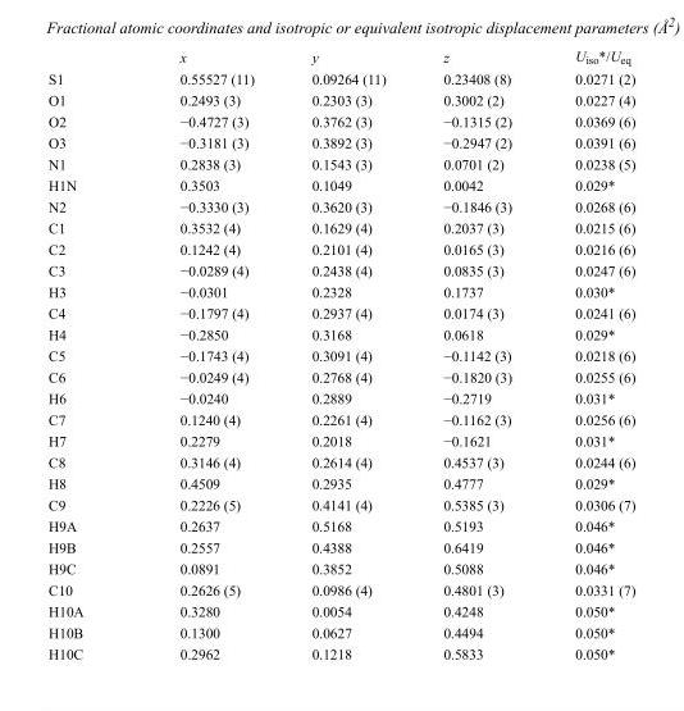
<table><thead><tr><td></td><td>x</td><td>y</td><td>z</td><td>U<sub>iso</sub>*/U<sub>eq</sub></td></tr></thead><tbody><tr><td>S1</td><td>0.55527 (11)</td><td>0.09264 (11)</td><td>0.23408 (8)</td><td>0.0271 (2)</td></tr><tr><td>O1</td><td>0.2493 (3)</td><td>0.2303 (3)</td><td>0.3002 (2)</td><td>0.0227 (4)</td></tr><tr><td>O2</td><td>−0.4727 (3)</td><td>0.3762 (3)</td><td>−0.1315 (2)</td><td>0.0369 (6)</td></tr><tr><td>O3</td><td>−0.3181 (3)</td><td>0.3892 (3)</td><td>−0.2947 (2)</td><td>0.0391 (6)</td></tr><tr><td>N1</td><td>0.2838 (3)</td><td>0.1543 (3)</td><td>0.0701 (2)</td><td>0.0238 (5)</td></tr><tr><td>H1N</td><td>0.3503</td><td>0.1049</td><td>0.0042</td><td>0.029*</td></tr><tr><td>N2</td><td>−0.3330 (3)</td><td>0.3620 (3)</td><td>−0.1846 (3)</td><td>0.0268 (6)</td></tr><tr><td>C1</td><td>0.3532 (4)</td><td>0.1629 (4)</td><td>0.2037 (3)</td><td>0.0215 (6)</td></tr><tr><td>C2</td><td>0.1242 (4)</td><td>0.2101 (4)</td><td>0.0165 (3)</td><td>0.0216 (6)</td></tr><tr><td>C3</td><td>−0.0289 (4)</td><td>0.2438 (4)</td><td>0.0835 (3)</td><td>0.0247 (6)</td></tr><tr><td>H3</td><td>−0.0301</td><td>0.2328</td><td>0.1737</td><td>0.030*</td></tr><tr><td>C4</td><td>−0.1797 (4)</td><td>0.2937 (4)</td><td>0.0174 (3)</td><td>0.0241 (6)</td></tr><tr><td>H4</td><td>−0.2850</td><td>0.3168</td><td>0.0618</td><td>0.029*</td></tr><tr><td>C5</td><td>−0.1743 (4)</td><td>0.3091 (4)</td><td>−0.1142 (3)</td><td>0.0218 (6)</td></tr><tr><td>C6</td><td>−0.0249 (4)</td><td>0.2768 (4)</td><td>−0.1820 (3)</td><td>0.0255 (6)</td></tr><tr><td>H6</td><td>−0.0240</td><td>0.2889</td><td>−0.2719</td><td>0.031*</td></tr><tr><td>C7</td><td>0.1240 (4)</td><td>0.2261 (4)</td><td>−0.1162 (3)</td><td>0.0256 (6)</td></tr><tr><td>H7</td><td>0.2279</td><td>0.2018</td><td>−0.1621</td><td>0.031*</td></tr><tr><td>C8</td><td>0.3146 (4)</td><td>0.2614 (4)</td><td>0.4537 (3)</td><td>0.0244 (6)</td></tr><tr><td>H8</td><td>0.4509</td><td>0.2935</td><td>0.4777</td><td>0.029*</td></tr><tr><td>C9</td><td>0.2226 (5)</td><td>0.4141 (4)</td><td>0.5385 (3)</td><td>0.0306 (7)</td></tr><tr><td>H9A</td><td>0.2637</td><td>0.5168</td><td>0.5193</td><td>0.046*</td></tr><tr><td>H9B</td><td>0.2557</td><td>0.4388</td><td>0.6419</td><td>0.046*</td></tr><tr><td>H9C</td><td>0.0891</td><td>0.3852</td><td>0.5088</td><td>0.046*</td></tr><tr><td>C10</td><td>0.2626 (5)</td><td>0.0986 (4)</td><td>0.4801 (3)</td><td>0.0331 (7)</td></tr><tr><td>H10A</td><td>0.3280</td><td>0.0054</td><td>0.4248</td><td>0.050*</td></tr><tr><td>H10B</td><td>0.1300</td><td>0.0627</td><td>0.4494</td><td>0.050*</td></tr><tr><td>H10C</td><td>0.2962</td><td>0.1218</td><td>0.5833</td><td>0.050*</td></tr></tbody></table>